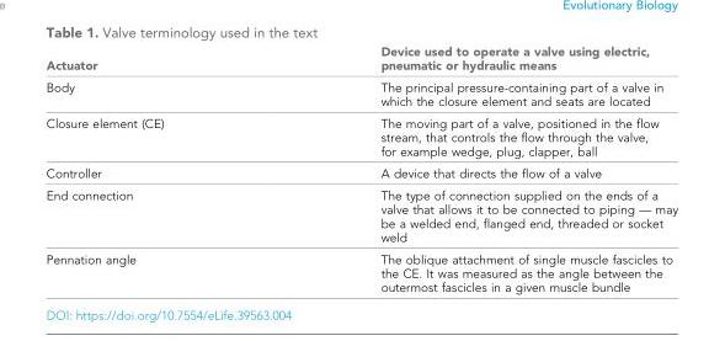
<table><thead><tr><td>Actuator</td><td>Device used to operate a valve using electric, pneumatic or hydraulic means</td></tr></thead><tbody><tr><td>Body</td><td>The principal pressure-containing part of a valve in which the closure element and seats are located</td></tr><tr><td>Closure element (CE)</td><td>The moving part of a valve, positioned in the flow stream, that controls the flow through the valve, for example wedge, plug, clapper, ball</td></tr><tr><td>Controller</td><td>A device that directs the flow of a valve</td></tr><tr><td>End connection</td><td>The type of connection supplied on the ends of a valve that allows it to be connected to piping — may be a welded end, flanged end, threaded or socket weld</td></tr><tr><td>Pennation angle</td><td>The oblique attachment of single muscle fascicles to the CE. It was measured as the angle between the outermost fascicles in a given muscle bundle</td></tr></tbody></table>